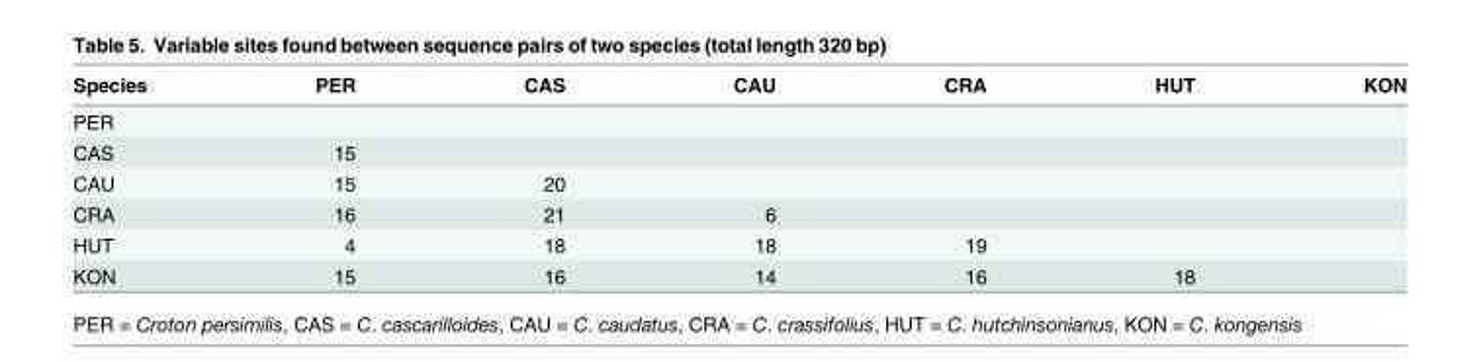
<table><thead><tr><td>Species</td><td>PER</td><td>CAS</td><td>CAU</td><td>CRA</td><td>HUT</td><td>KON</td></tr></thead><tbody><tr><td colspan="7">PER</td></tr><tr><td>CAS</td><td>15</td><td></td><td></td><td></td><td></td><td></td></tr><tr><td>CAU</td><td>15</td><td>20</td><td></td><td></td><td></td><td></td></tr><tr><td>CRA</td><td>16</td><td>21</td><td>6</td><td></td><td></td><td></td></tr><tr><td>HUT</td><td>4</td><td>18</td><td>18</td><td>19</td><td></td><td></td></tr><tr><td>KON</td><td>15</td><td>16</td><td>14</td><td>16</td><td>18</td><td></td></tr></tbody></table>